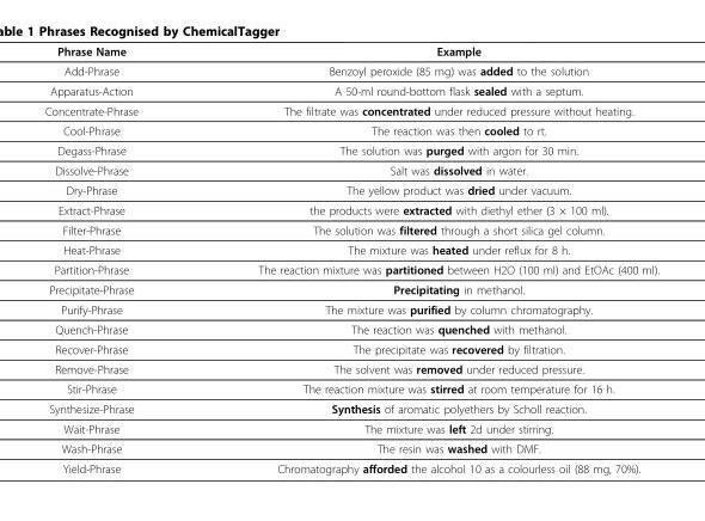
<table><thead><tr><td>Phrase Name</td><td>Example</td></tr></thead><tbody><tr><td>Add-Phrase</td><td>Benzoyl peroxide (85 mg) was added to the solution</td></tr><tr><td>Apparatus-Action</td><td>A 50-ml round-bottom flask sealed with a septum.</td></tr><tr><td>Concentrate-Phrase</td><td>The filtrate was concentrated under reduced pressure without heating.</td></tr><tr><td>Cool-Phrase</td><td>The reaction was then cooled to rt.</td></tr><tr><td>Degass-Phrase</td><td>The solution was purged with argon for 30 min.</td></tr><tr><td>Dissolve-Phrase</td><td>Salt was dissolved in water.</td></tr><tr><td>Dry-Phrase</td><td>The yellow product was dried under vacuum.</td></tr><tr><td>Extract-Phrase</td><td>the products were extracted with diethyl ether (3 × 100 ml).</td></tr><tr><td>Filter-Phrase</td><td>The solution was filtered through a short silica gel column.</td></tr><tr><td>Heat-Phrase</td><td>The mixture was heated under reflux for 8 h.</td></tr><tr><td>Partition-Phrase</td><td>The reaction mixture was partitioned between H2O (100 ml) and EtOAc (400 ml).</td></tr><tr><td>Precipitate-Phrase</td><td>Precipitating in methanol.</td></tr><tr><td>Purify-Phrase</td><td>The mixture was purified by column chromatography.</td></tr><tr><td>Quench-Phrase</td><td>The reaction was quenched with methanol.</td></tr><tr><td>Recover-Phrase</td><td>The precipitate was recovered by filtration.</td></tr><tr><td>Remove-Phrase</td><td>The solvent was removed under reduced pressure.</td></tr><tr><td>Stir-Phrase</td><td>The reaction mixture was stirred at room temperature for 16 h.</td></tr><tr><td>Synthesize-Phrase</td><td>Synthesis of aromatic polyethers by Scholl reaction.</td></tr><tr><td>Wait-Phrase</td><td>The mixture was left 2d under stirring.</td></tr><tr><td>Wash-Phrase</td><td>The resin was washed with DMF.</td></tr><tr><td>Yield-Phrase</td><td>Chromatography afforded the alcohol 10 as a colourless oil (88 mg, 70%).</td></tr></tbody></table>